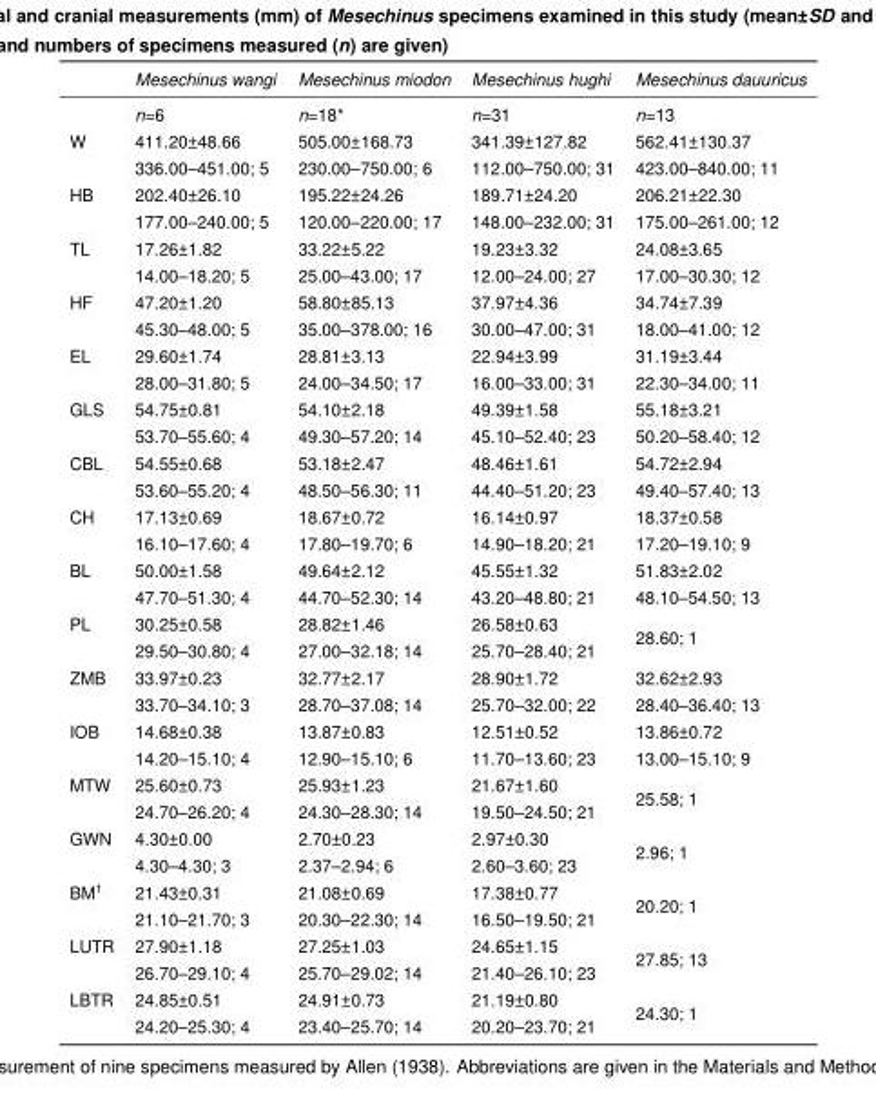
<table><thead><tr><td></td><td>Mesechinus wangi</td><td>Mesechinus miodon</td><td>Mesechinus hughi</td><td>Mesechinus dauuricus</td></tr></thead><tbody><tr><td></td><td>n=6</td><td>n=18*</td><td>n=31</td><td>n=13</td></tr><tr><td rowspan="2">W</td><td>411.20±48.66</td><td>505.00±168.73</td><td>341.39±127.82</td><td>562.41±130.37</td></tr><tr><td>336.00–451.00; 5</td><td>230.00–750.00; 6</td><td>112.00–750.00; 31</td><td>423.00–840.00; 11</td></tr><tr><td rowspan="2">HB</td><td>202.40±26.10</td><td>195.22±24.26</td><td>189.71±24.20</td><td>206.21±22.30</td></tr><tr><td>177.00–240.00; 5</td><td>120.00–220.00; 17</td><td>148.00–232.00; 31</td><td>175.00–261.00; 12</td></tr><tr><td rowspan="2">TL</td><td>17.26±1.82</td><td>33.22±5.22</td><td>19.23±3.32</td><td>24.08±3.65</td></tr><tr><td>14.00–18.20; 5</td><td>25.00–43.00; 17</td><td>12.00–24.00; 27</td><td>17.00–30.30; 12</td></tr><tr><td rowspan="2">HF</td><td>47.20±1.20</td><td>58.80±85.13</td><td>37.97±4.36</td><td>34.74±7.39</td></tr><tr><td>45.30–48.00; 5</td><td>35.00–378.00; 16</td><td>30.00–47.00; 31</td><td>18.00–41.00; 12</td></tr><tr><td rowspan="2">EL</td><td>29.60±1.74</td><td>28.81±3.13</td><td>22.94±3.99</td><td>31.19±3.44</td></tr><tr><td>28.00–31.80; 5</td><td>24.00–34.50; 17</td><td>16.00–33.00; 31</td><td>22.30–34.00; 11</td></tr><tr><td rowspan="2">GLS</td><td>54.75±0.81</td><td>54.10±2.18</td><td>49.39±1.58</td><td>55.18±3.21</td></tr><tr><td>53.70–55.60; 4</td><td>49.30–57.20; 14</td><td>45.10–52.40; 23</td><td>50.20–58.40; 12</td></tr><tr><td rowspan="2">CBL</td><td>54.55±0.68</td><td>53.18±2.47</td><td>48.46±1.61</td><td>54.72±2.94</td></tr><tr><td>53.60–55.20; 4</td><td>48.50–56.30; 11</td><td>44.40–51.20; 23</td><td>49.40–57.40; 13</td></tr><tr><td rowspan="2">CH</td><td>17.13±0.69</td><td>18.67±0.72</td><td>16.14±0.97</td><td>18.37±0.58</td></tr><tr><td>16.10–17.60; 4</td><td>17.80–19.70; 6</td><td>14.90–18.20; 21</td><td>17.20–19.10; 9</td></tr><tr><td rowspan="2">BL</td><td>50.00±1.58</td><td>49.64±2.12</td><td>45.55±1.32</td><td>51.83±2.02</td></tr><tr><td>47.70–51.30; 4</td><td>44.70–52.30; 14</td><td>43.20–48.80; 21</td><td>48.10–54.50; 13</td></tr><tr><td rowspan="2">PL</td><td>30.25±0.58</td><td>28.82±1.46</td><td>26.58±0.63</td><td rowspan="2">28.60; 1</td></tr><tr><td>29.50–30.80; 4</td><td>27.00–32.18; 14</td><td>25.70–28.40; 21</td></tr><tr><td rowspan="2">ZMB</td><td>33.97±0.23</td><td>32.77±2.17</td><td>28.90±1.72</td><td>32.62±2.93</td></tr><tr><td>33.70–34.10; 3</td><td>28.70–37.08; 14</td><td>25.70–32.00; 22</td><td>28.40–36.40; 13</td></tr><tr><td rowspan="2">IOB</td><td>14.68±0.38</td><td>13.87±0.83</td><td>12.51±0.52</td><td>13.86±0.72</td></tr><tr><td>14.20–15.10; 4</td><td>12.90–15.10; 6</td><td>11.70–13.60; 23</td><td>13.00–15.10; 9</td></tr><tr><td rowspan="2">MTW</td><td>25.60±0.73</td><td>25.93±1.23</td><td>21.67±1.60</td><td rowspan="2">25.58; 1</td></tr><tr><td>24.70–26.20; 4</td><td>24.30–28.30; 14</td><td>19.50–24.50; 21</td></tr><tr><td rowspan="2">GWN</td><td>4.30±0.00</td><td>2.70±0.23</td><td>2.97±0.30</td><td rowspan="2">2.96; 1</td></tr><tr><td>4.30–4.30; 3</td><td>2.37–2.94; 6</td><td>2.60–3.60; 23</td></tr><tr><td rowspan="2">BM<sup>1</sup></td><td>21.43±0.31</td><td>21.08±0.69</td><td>17.38±0.77</td><td rowspan="2">20.20; 1</td></tr><tr><td>21.10–21.70; 3</td><td>20.30–22.30; 14</td><td>16.50–19.50; 21</td></tr><tr><td rowspan="2">LUTR</td><td>27.90±1.18</td><td>27.25±1.03</td><td>24.65±1.15</td><td rowspan="2">27.85; 13</td></tr><tr><td>26.70–29.10; 4</td><td>25.70–29.02; 14</td><td>21.40–26.10; 23</td></tr><tr><td rowspan="2">LBTR</td><td>24.85±0.51</td><td>24.91±0.73</td><td>21.19±0.80</td><td rowspan="2">24.30; 1</td></tr><tr><td>24.20–25.30; 4</td><td>23.40–25.70; 14</td><td>20.20–23.70; 21</td></tr></tbody></table>